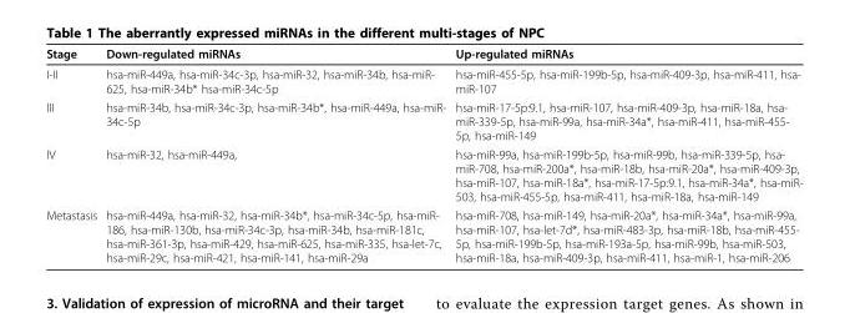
<table><thead><tr><td>Stage</td><td>Down-regulated miRNAs</td><td>Up-regulated miRNAs</td></tr></thead><tbody><tr><td>I-II</td><td>hsa-miR-449a, hsa-miR-34c-3p, hsa-miR-32, hsa-miR-34b, hsa-miR- 625, hsa-miR-34b* hsa-miR-34c-5p</td><td>hsa-miR-455-5p, hsa-miR-199b-5p, hsa-miR-409-3p, hsa-miR-411, hsa- miR-107</td></tr><tr><td>III</td><td>hsa-miR-34b, hsa-miR-34c-3p, hsa-miR-34b*, hsa-miR-449a, hsa-miR- 34c-5p</td><td>hsa-miR-17-5p:9.1, hsa-miR-107, hsa-miR-409-3p, hsa-miR-18a, hsa- miR-339-5p, hsa-miR-99a, hsa-miR-34a*, hsa-miR-411, hsa-miR-455- 5p, hsa-miR-149</td></tr><tr><td>IV</td><td>hsa-miR-32, hsa-miR-449a,</td><td>hsa-miR-99a, hsa-miR-199b-5p, hsa-miR-99b, hsa-miR-339-5p, hsa- miR-708, hsa-miR-200a*, hsa-miR-18b, hsa-miR-20a*, hsa-miR-409-3p, hsa-miR-107, hsa-miR-18a*, hsa-miR-17-5p:9.1, hsa-miR-34a*, hsa-miR- 503, hsa-miR-455-5p, hsa-miR-411, hsa-miR-18a, hsa-miR-149</td></tr><tr><td>Metastasis</td><td>hsa-miR-449a, hsa-miR-32, hsa-miR-34b*, hsa-miR-34c-5p, hsa-miR- 186, hsa-miR-130b, hsa-miR-34c-3p, hsa-miR-34b, hsa-miR-181c, hsa-miR-361-3p, hsa-miR-429, hsa-miR-625, hsa-miR-335, hsa-let-7c, hsa-miR-29c, hsa-miR-421, hsa-miR-141, hsa-miR-29a</td><td>hsa-miR-708, hsa-miR-149, hsa-miR-20a*, hsa-miR-34a*, hsa-miR-99a, hsa-miR-107, hsa-let-7d*, hsa-miR-483-3p, hsa-miR-18b, hsa-miR-455- 5p, hsa-miR-199b-5p, hsa-miR-193a-5p, hsa-miR-99b, hsa-miR-503, hsa-miR-18a, hsa-miR-409-3p, hsa-miR-411, hsa-miR-1, hsa-miR-206</td></tr></tbody></table>